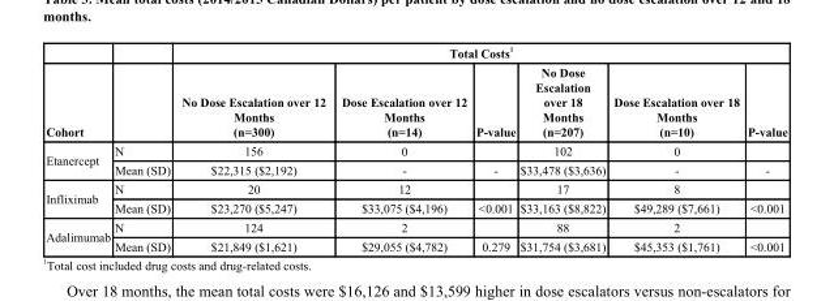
<table><thead><tr><td rowspan="2">Cohort</td><td rowspan="2"></td><td colspan="6">Total Costs <sup>1</sup></td></tr><tr><td>No Dose Escalation over 12 Months (n=300)</td><td>Dose Escalation over 12 Months (n=14)</td><td>P-value</td><td>No Dose Escalation over 18 Months (n=207)</td><td>Dose Escalation over 18 Months (n=10)</td><td>P-value</td></tr></thead><tbody><tr><td rowspan="2">Etanercept</td><td>N</td><td>156</td><td>0</td><td></td><td>102</td><td>0</td><td></td></tr><tr><td>Mean (SD)</td><td>$22,315 ($2,192)</td><td>-</td><td>-</td><td>$33,478 ($3,636)</td><td>-</td><td>-</td></tr><tr><td rowspan="2">Infliximab</td><td>N</td><td>20</td><td>12</td><td></td><td>17</td><td>8</td><td></td></tr><tr><td>Mean (SD)</td><td>$23,270 ($5,247)</td><td>$33,075 ($4,196)</td><td>&lt;0.001</td><td>$33,163 ($8,822)</td><td>$49,289 ($7,661)</td><td>&lt;0.001</td></tr><tr><td rowspan="2">Adalimumab</td><td>N</td><td>124</td><td>2</td><td></td><td>88</td><td>2</td><td></td></tr><tr><td>Mean (SD)</td><td>$21,849 ($1,621)</td><td>$29,055 ($4,782)</td><td>0.279</td><td>$31,754 ($3,681)</td><td>$45,353 ($1,761)</td><td>&lt;0.001</td></tr></tbody></table>